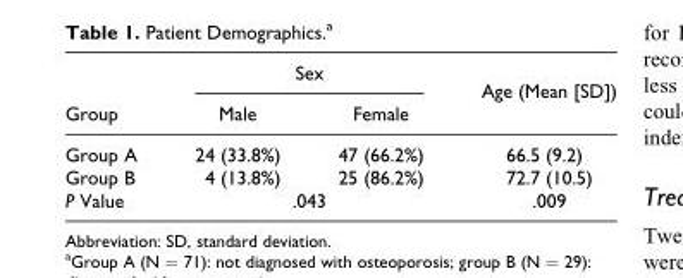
<table><thead><tr><td rowspan="2">Group</td><td colspan="2">Sex</td><td rowspan="2">Age (Mean [SD])</td></tr><tr><td>Male</td><td>Female</td></tr></thead><tbody><tr><td>Group A</td><td>24 (33.8%)</td><td>47 (66.2%)</td><td>66.5 (9.2)</td></tr><tr><td>Group B</td><td>4 (13.8%)</td><td>25 (86.2%)</td><td>72.7 (10.5)</td></tr><tr><td>P Value</td><td colspan="2">.043</td><td>.009</td></tr></tbody></table>